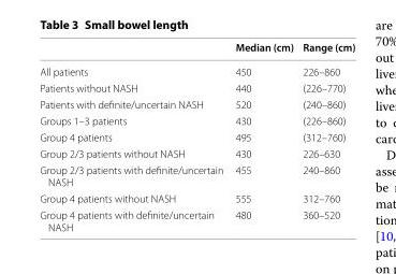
<table><thead><tr><td></td><td>Median (cm)</td><td>Range (cm)</td></tr></thead><tbody><tr><td>All patients</td><td>450</td><td>226–860</td></tr><tr><td>Patients without NASH</td><td>440</td><td>(226–770)</td></tr><tr><td>Patients with definite/uncertain NASH</td><td>520</td><td>(240–860)</td></tr><tr><td>Groups 1–3 patients</td><td>430</td><td>(226–860)</td></tr><tr><td>Group 4 patients</td><td>495</td><td>(312–760)</td></tr><tr><td>Group 2/3 patients without NASH</td><td>430</td><td>226–630</td></tr><tr><td>Group 2/3 patients with definite/uncertain NASH</td><td>455</td><td>240–860</td></tr><tr><td>Group 4 patients without NASH</td><td>555</td><td>312–760</td></tr><tr><td>Group 4 patients with definite/uncertain NASH</td><td>480</td><td>360–520</td></tr></tbody></table>